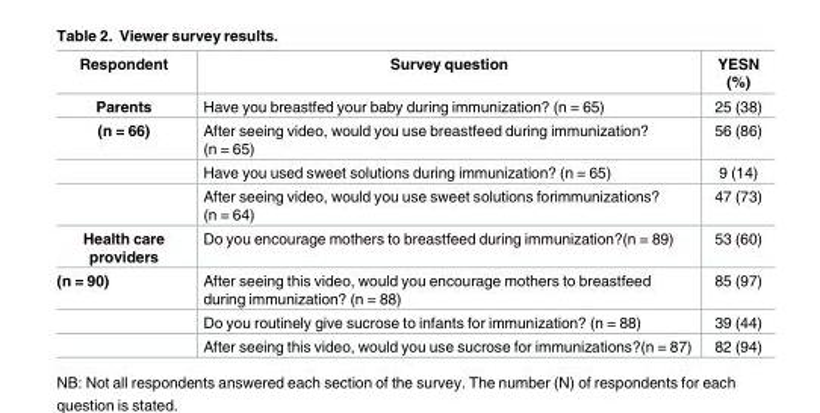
<table><thead><tr><td>Respondent</td><td>Survey question</td><td>YESN (%)</td></tr></thead><tbody><tr><td>Parents</td><td>Have you breastfed your baby during immunization? (n = 65)</td><td>25 (38)</td></tr><tr><td rowspan="3">(n = 66)</td><td>After seeing video, would you use breastfeed during immunization? (n = 65)</td><td>56 (86)</td></tr><tr><td>Have you used sweet solutions during immunization? (n = 65)</td><td>9 (14)</td></tr><tr><td>After seeing video, would you use sweet solutions forimmunizations? (n = 64)</td><td>47 (73)</td></tr><tr><td>Health care providers</td><td>Do you encourage mothers to breastfeed during immunization?(n = 89)</td><td>53 (60)</td></tr><tr><td rowspan="3">(n = 90)</td><td>After seeing this video, would you encourage mothers to breastfeed during immunization? (n = 88)</td><td>85 (97)</td></tr><tr><td>Do you routinely give sucrose to infants for immunization? (n = 88)</td><td>39 (44)</td></tr><tr><td>After seeing this video, would you use sucrose for immunizations?(n = 87)</td><td>82 (94)</td></tr></tbody></table>